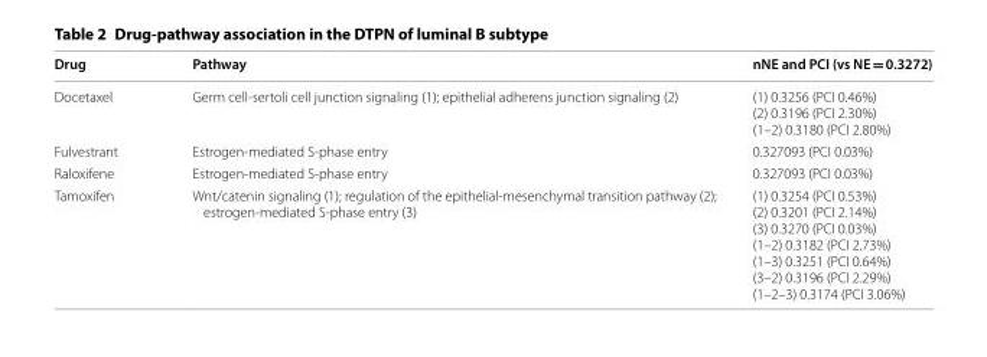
<table><thead><tr><td>Drug</td><td>Pathway</td><td>nNE and PCI (vs NE = 0.3272)</td></tr></thead><tbody><tr><td>Docetaxel</td><td>Germ cell-sertoli cell junction signaling (1); epithelial adherens junction signaling (2)</td><td>(1) 0.3256 (PCI 0.46%) (2) 0.3196 (PCI 2.30%) (1–2) 0.3180 (PCI 2.80%)</td></tr><tr><td>Fulvestrant</td><td>Estrogen-mediated S-phase entry</td><td>0.327093 (PCI 0.03%)</td></tr><tr><td>Raloxifene</td><td>Estrogen-mediated S-phase entry</td><td>0.327093 (PCI 0.03%)</td></tr><tr><td>Tamoxifen</td><td>Wnt/catenin signaling (1); regulation of the epithelial-mesenchymal transition pathway (2); estrogen-mediated S-phase entry (3)</td><td>(1) 0.3254 (PCI 0.53%) (2) 0.3201 (PCI 2.14%) (3) 0.3270 (PCI 0.03%) (1–2) 0.3182 (PCI 2.73%) (1–3) 0.3251 (PCI 0.64%) (3–2) 0.3196 (PCI 2.29%) (1–2–3) 0.3174 (PCI 3.06%)</td></tr></tbody></table>